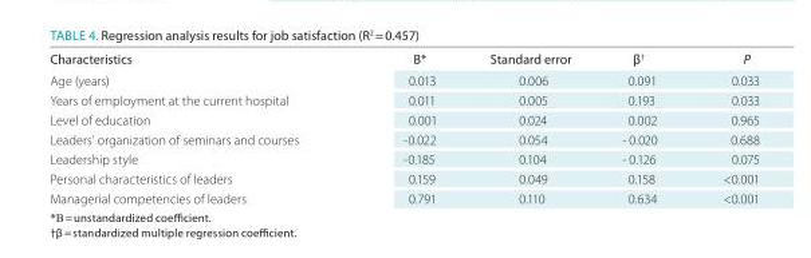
<table><thead><tr><td>Characteristics</td><td>B*</td><td>Standard error</td><td>β<sup>†</sup></td><td>P</td></tr></thead><tbody><tr><td>Age (years)</td><td>0.013</td><td>0.006</td><td>0.091</td><td>0.033</td></tr><tr><td>Years of employment at the current hospital</td><td>0.011</td><td>0.005</td><td>0.193</td><td>0.033</td></tr><tr><td>Level of education</td><td>0.001</td><td>0.024</td><td>0.002</td><td>0.965</td></tr><tr><td>Leaders’ organization of seminars and courses</td><td>-0.022</td><td>0.054</td><td>- 0.020</td><td>0.688</td></tr><tr><td>Leadership style</td><td>-0.185</td><td>0.104</td><td>- 0.126</td><td>0.075</td></tr><tr><td>Personal characteristics of leaders</td><td>0.159</td><td>0.049</td><td>0.158</td><td>&lt;0.001</td></tr><tr><td>Managerial competencies of leaders</td><td>0.791</td><td>0.110</td><td>0.634</td><td>&lt;0.001</td></tr></tbody></table>